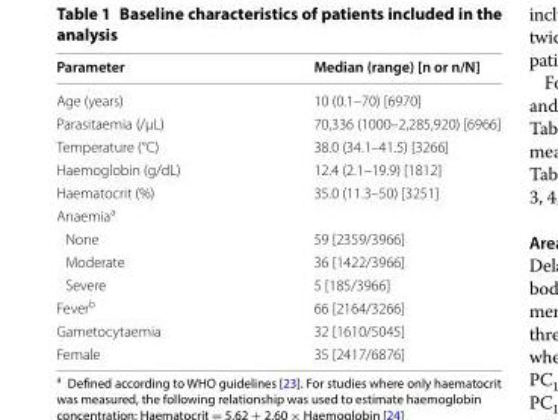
<table><thead><tr><td>Parameter</td><td>Median (range) [n or n/N]</td></tr></thead><tbody><tr><td>Age (years)</td><td>10 (0.1–70) [6970]</td></tr><tr><td>Parasitaemia (/µL)</td><td>70,336 (1000–2,285,920) [6966]</td></tr><tr><td>Temperature (°C)</td><td>38.0 (34.1–41.5) [3266]</td></tr><tr><td>Haemoglobin (g/dL)</td><td>12.4 (2.1–19.9) [1812]</td></tr><tr><td>Haematocrit (%)</td><td>35.0 (11.3–50) [3251]</td></tr><tr><td colspan="2">Anaemia<sup>a</sup></td></tr><tr><td>None</td><td>59 [2359/3966]</td></tr><tr><td>Moderate</td><td>36 [1422/3966]</td></tr><tr><td>Severe</td><td>5 [185/3966]</td></tr><tr><td>Fever<sup>b</sup></td><td>66 [2164/3266]</td></tr><tr><td>Gametocytaemia</td><td>32 [1610/5045]</td></tr><tr><td>Female</td><td>35 [2417/6876]</td></tr></tbody></table>